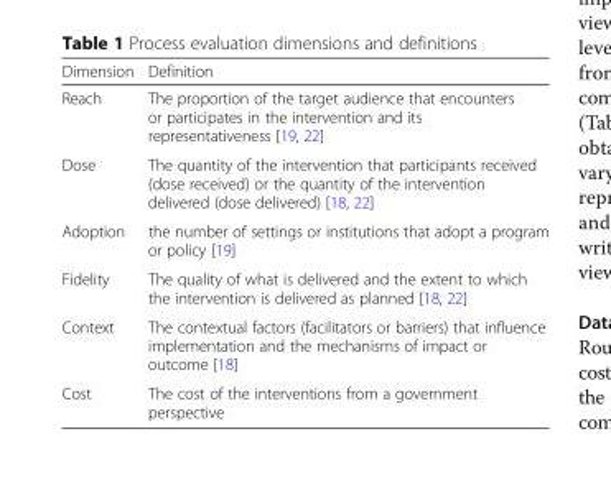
<table><thead><tr><td>Dimension</td><td>Definition</td></tr></thead><tbody><tr><td>Reach</td><td>The proportion of the target audience that encounters or participates in the intervention and its representativeness [19, 22]</td></tr><tr><td>Dose</td><td>The quantity of the intervention that participants received (dose received) or the quantity of the intervention delivered (dose delivered) [18, 22]</td></tr><tr><td>Adoption</td><td>the number of settings or institutions that adopt a program or policy [19]</td></tr><tr><td>Fidelity</td><td>The quality of what is delivered and the extent to which the intervention is delivered as planned [18, 22]</td></tr><tr><td>Context</td><td>The contextual factors (facilitators or barriers) that influence implementation and the mechanisms of impact or outcome [18]</td></tr><tr><td>Cost</td><td>The cost of the interventions from a government perspective</td></tr></tbody></table>